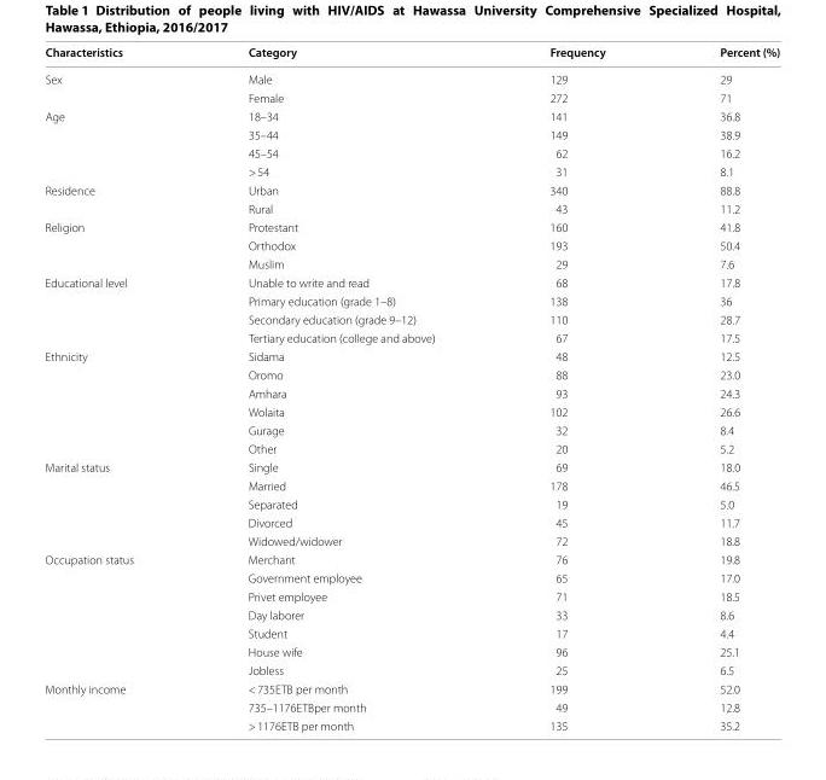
<table><thead><tr><td>Characteristics</td><td>Category</td><td>Frequency</td><td>Percent (%)</td></tr></thead><tbody><tr><td rowspan="2">Sex</td><td>Male</td><td>129</td><td>29</td></tr><tr><td>Female</td><td>272</td><td>71</td></tr><tr><td rowspan="4">Age</td><td>18–34</td><td>141</td><td>36.8</td></tr><tr><td>35–44</td><td>149</td><td>38.9</td></tr><tr><td>45–54</td><td>62</td><td>16.2</td></tr><tr><td>&gt; 54</td><td>31</td><td>8.1</td></tr><tr><td rowspan="2">Residence</td><td>Urban</td><td>340</td><td>88.8</td></tr><tr><td>Rural</td><td>43</td><td>11.2</td></tr><tr><td rowspan="3">Religion</td><td>Protestant</td><td>160</td><td>41.8</td></tr><tr><td>Orthodox</td><td>193</td><td>50.4</td></tr><tr><td>Muslim</td><td>29</td><td>7.6</td></tr><tr><td rowspan="4">Educational level</td><td>Unable to write and read</td><td>68</td><td>17.8</td></tr><tr><td>Primary education (grade 1–8)</td><td>138</td><td>36</td></tr><tr><td>Secondary education (grade 9–12)</td><td>110</td><td>28.7</td></tr><tr><td>Tertiary education (college and above)</td><td>67</td><td>17.5</td></tr><tr><td rowspan="6">Ethnicity</td><td>Sidama</td><td>48</td><td>12.5</td></tr><tr><td>Oromo</td><td>88</td><td>23.0</td></tr><tr><td>Amhara</td><td>93</td><td>24.3</td></tr><tr><td>Wolaita</td><td>102</td><td>26.6</td></tr><tr><td>Gurage</td><td>32</td><td>8.4</td></tr><tr><td>Other</td><td>20</td><td>5.2</td></tr><tr><td rowspan="5">Marital status</td><td>Single</td><td>69</td><td>18.0</td></tr><tr><td>Married</td><td>178</td><td>46.5</td></tr><tr><td>Separated</td><td>19</td><td>5.0</td></tr><tr><td>Divorced</td><td>45</td><td>11.7</td></tr><tr><td>Widowed/widower</td><td>72</td><td>18.8</td></tr><tr><td rowspan="7">Occupation status</td><td>Merchant</td><td>76</td><td>19.8</td></tr><tr><td>Government employee</td><td>65</td><td>17.0</td></tr><tr><td>Privet employee</td><td>71</td><td>18.5</td></tr><tr><td>Day laborer</td><td>33</td><td>8.6</td></tr><tr><td>Student</td><td>17</td><td>4.4</td></tr><tr><td>House wife</td><td>96</td><td>25.1</td></tr><tr><td>Jobless</td><td>25</td><td>6.5</td></tr><tr><td rowspan="3">Monthly income</td><td>&lt; 735ETB per month</td><td>199</td><td>52.0</td></tr><tr><td>735–1176ETBper month</td><td>49</td><td>12.8</td></tr><tr><td>&gt; 1176ETB per month</td><td>135</td><td>35.2</td></tr></tbody></table>